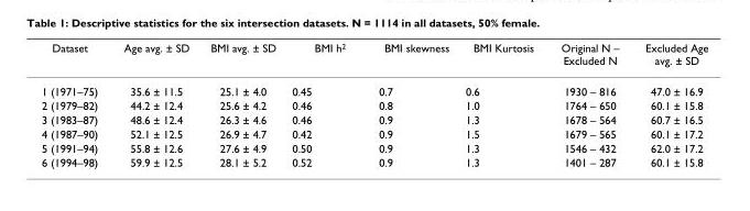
<table><thead><tr><td>Dataset</td><td>Age avg. ± SD</td><td>BMI avg. ± SD</td><td>BMI h<sup>2</sup></td><td>BMI skewness</td><td>BMI Kurtosis</td><td>Original N – Excluded N</td><td>Excluded Age avg. ± SD</td></tr></thead><tbody><tr><td>1 (1971–75)</td><td>35.6 ± 11.5</td><td>25.1 ± 4.0</td><td>0.45</td><td>0.7</td><td>0.6</td><td>1930 – 816</td><td>47.0 ± 16.9</td></tr><tr><td>2 (1979–82)</td><td>44.2 ± 12.4</td><td>25.6 ± 4.2</td><td>0.46</td><td>0.8</td><td>1.0</td><td>1764 – 650</td><td>60.1 ± 15.8</td></tr><tr><td>3 (1983–87)</td><td>48.6 ± 12.4</td><td>26.3 ± 4.6</td><td>0.46</td><td>0.9</td><td>1.3</td><td>1678 – 564</td><td>60.7 ± 16.5</td></tr><tr><td>4 (1987–90)</td><td>52.1 ± 12.5</td><td>26.9 ± 4.7</td><td>0.42</td><td>0.9</td><td>1.5</td><td>1679 – 565</td><td>60.1 ± 17.2</td></tr><tr><td>5 (1991–94)</td><td>55.8 ± 12.6</td><td>27.6 ± 4.9</td><td>0.50</td><td>0.9</td><td>1.3</td><td>1546 – 432</td><td>62.0 ± 17.2</td></tr><tr><td>6 (1994–98)</td><td>59.9 ± 12.5</td><td>28.1 ± 5.2</td><td>0.52</td><td>0.9</td><td>1.3</td><td>1401 – 287</td><td>60.1 ± 15.8</td></tr></tbody></table>